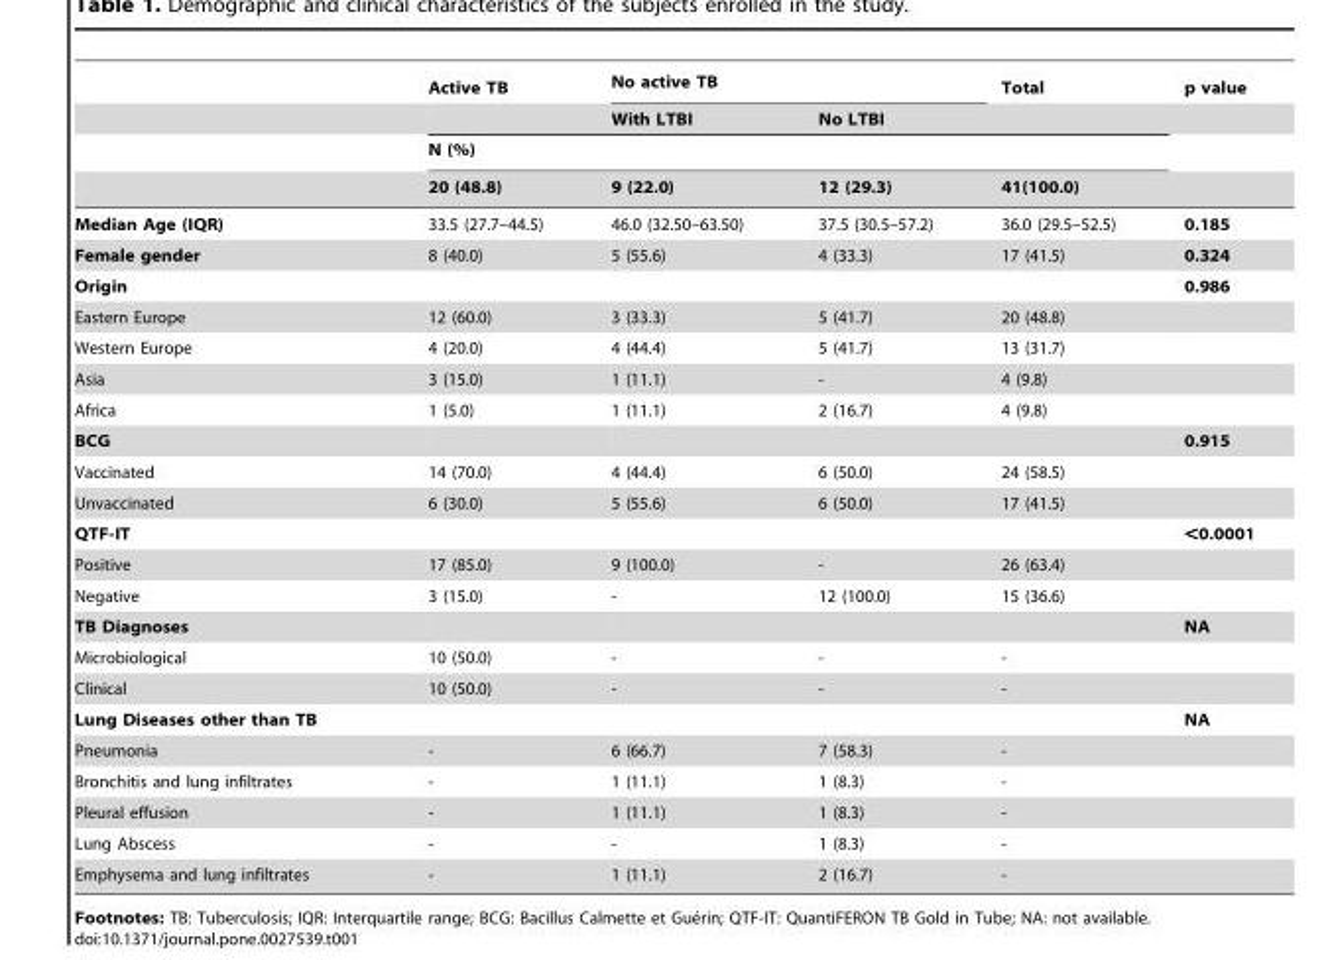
<table><thead><tr><td rowspan="4"></td><td rowspan="2">Active TB</td><td colspan="2">No active TB</td><td rowspan="2">Total</td><td rowspan="4">p value</td></tr><tr><td>With LTBI</td><td>No LTBI</td></tr><tr><td colspan="4">N (%)</td></tr><tr><td>20 (48.8)</td><td>9 (22.0)</td><td>12 (29.3)</td><td>41(100.0)</td></tr></thead><tbody><tr><td>Median Age (IQR)</td><td>33.5 (27.7–44.5)</td><td>46.0 (32.50–63.50)</td><td>37.5 (30.5–57.2)</td><td>36.0 (29.5–52.5)</td><td>0.185</td></tr><tr><td>Female gender</td><td>8 (40.0)</td><td>5 (55.6)</td><td>4 (33.3)</td><td>17 (41.5)</td><td>0.324</td></tr><tr><td>Origin</td><td></td><td></td><td></td><td></td><td>0.986</td></tr><tr><td>Eastern Europe</td><td>12 (60.0)</td><td>3 (33.3)</td><td>5 (41.7)</td><td>20 (48.8)</td><td></td></tr><tr><td>Western Europe</td><td>4 (20.0)</td><td>4 (44.4)</td><td>5 (41.7)</td><td>13 (31.7)</td><td></td></tr><tr><td>Asia</td><td>3 (15.0)</td><td>1 (11.1)</td><td>-</td><td>4 (9.8)</td><td></td></tr><tr><td>Africa</td><td>1 (5.0)</td><td>1 (11.1)</td><td>2 (16.7)</td><td>4 (9.8)</td><td></td></tr><tr><td>BCG</td><td></td><td></td><td></td><td></td><td>0.915</td></tr><tr><td>Vaccinated</td><td>14 (70.0)</td><td>4 (44.4)</td><td>6 (50.0)</td><td>24 (58.5)</td><td></td></tr><tr><td>Unvaccinated</td><td>6 (30.0)</td><td>5 (55.6)</td><td>6 (50.0)</td><td>17 (41.5)</td><td></td></tr><tr><td>QTF-IT</td><td></td><td></td><td></td><td></td><td>&lt;0.0001</td></tr><tr><td>Positive</td><td>17 (85.0)</td><td>9 (100.0)</td><td>-</td><td>26 (63.4)</td><td></td></tr><tr><td>Negative</td><td>3 (15.0)</td><td>-</td><td>12 (100.0)</td><td>15 (36.6)</td><td></td></tr><tr><td>TB Diagnoses</td><td></td><td></td><td></td><td></td><td>NA</td></tr><tr><td>Microbiological</td><td>10 (50.0)</td><td>-</td><td>-</td><td>-</td><td></td></tr><tr><td>Clinical</td><td>10 (50.0)</td><td>-</td><td>-</td><td>-</td><td></td></tr><tr><td>Lung Diseases other than TB</td><td></td><td></td><td></td><td></td><td>NA</td></tr><tr><td>Pneumonia</td><td>-</td><td>6 (66.7)</td><td>7 (58.3)</td><td>-</td><td></td></tr><tr><td>Bronchitis and lung infiltrates</td><td>-</td><td>1 (11.1)</td><td>1 (8.3)</td><td>-</td><td></td></tr><tr><td>Pleural effusion</td><td>-</td><td>1 (11.1)</td><td>1 (8.3)</td><td>-</td><td></td></tr><tr><td>Lung Abscess</td><td>-</td><td>-</td><td>1 (8.3)</td><td>-</td><td></td></tr><tr><td>Emphysema and lung infiltrates</td><td>-</td><td>1 (11.1)</td><td>2 (16.7)</td><td>-</td><td></td></tr></tbody></table>